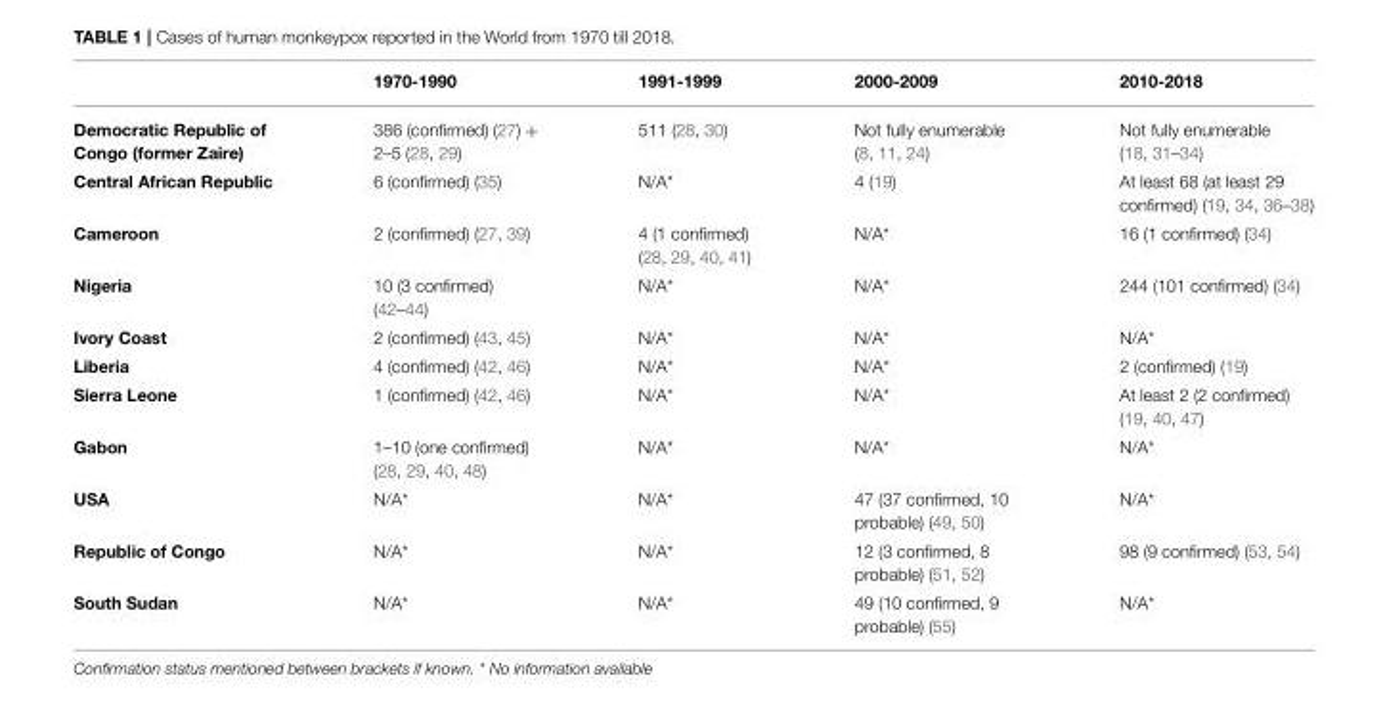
<table><thead><tr><td></td><td>1970-1990</td><td>1991-1999</td><td>2000-2009</td><td>2010-2018</td></tr></thead><tbody><tr><td>Democratic Republic of Congo (former Zaire)</td><td>386 (confirmed) (27) + 2–5 (28, 29)</td><td>511 (28, 30)</td><td>Not fully enumerable (8, 11, 24)</td><td>Not fully enumerable (18, 31–34)</td></tr><tr><td>Central African Republic</td><td>6 (confirmed) (35)</td><td>N/A*</td><td>4 (19)</td><td>At least 68 (at least 29 confirmed) (19, 34, 36–38)</td></tr><tr><td>Cameroon</td><td>2 (confirmed) (27, 39)</td><td>4 (1 confirmed) (28, 29, 40, 41)</td><td>N/A*</td><td>16 (1 confirmed) (34)</td></tr><tr><td>Nigeria</td><td>10 (3 confirmed) (42–44)</td><td>N/A*</td><td>N/A*</td><td>244 (101 confirmed) (34)</td></tr><tr><td>Ivory Coast</td><td>2 (confirmed) (43, 45)</td><td>N/A*</td><td>N/A*</td><td>N/A*</td></tr><tr><td>Liberia</td><td>4 (confirmed) (42, 46)</td><td>N/A*</td><td>N/A*</td><td>2 (confirmed) (19)</td></tr><tr><td>Sierra Leone</td><td>1 (confirmed) (42, 46)</td><td>N/A*</td><td>N/A*</td><td>At least 2 (2 confirmed) (19, 40, 47)</td></tr><tr><td>Gabon</td><td>1–10 (one confirmed) (28, 29, 40, 48)</td><td>N/A*</td><td>N/A*</td><td>N/A*</td></tr><tr><td>USA</td><td>N/A*</td><td>N/A*</td><td>47 (37 confirmed, 10 probable) (49, 50)</td><td>N/A*</td></tr><tr><td>Republic of Congo</td><td>N/A*</td><td>N/A*</td><td>12 (3 confirmed, 8 probable) (51, 52)</td><td>98 (9 confirmed) (53, 54)</td></tr><tr><td>South Sudan</td><td>N/A*</td><td>N/A*</td><td>49 (10 confirmed, 9 probable) (55)</td><td>N/A*</td></tr></tbody></table>